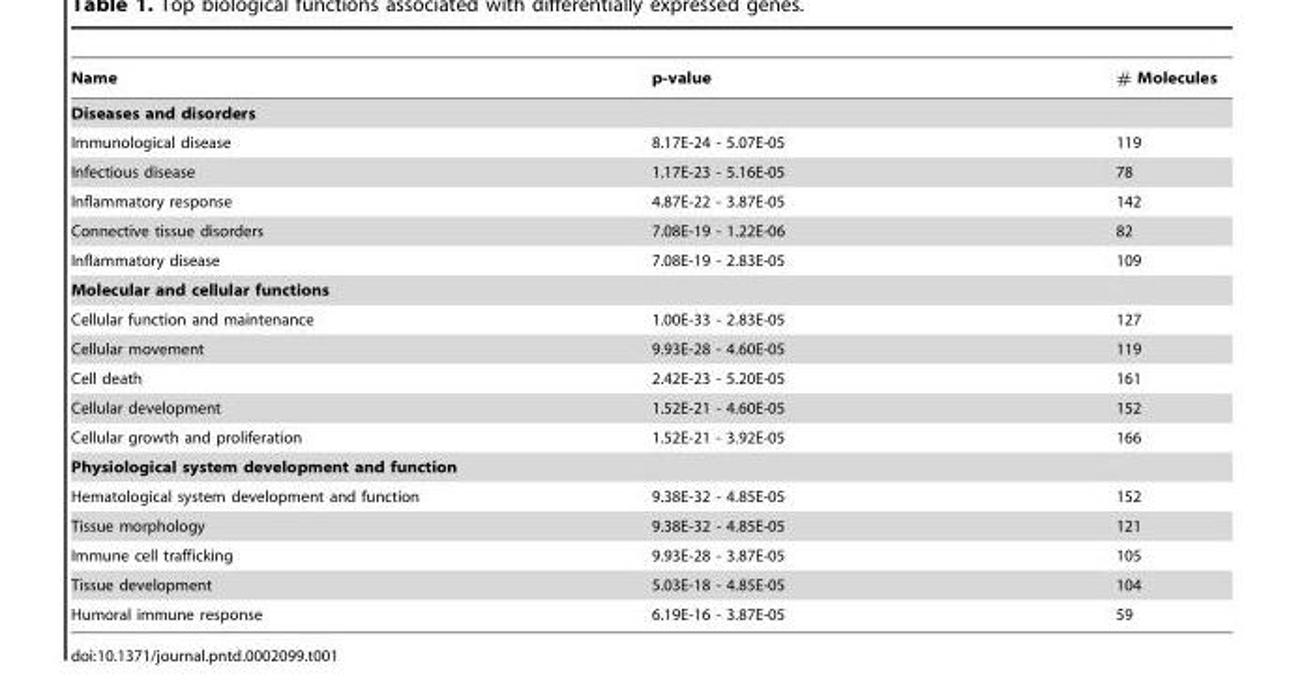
<table><thead><tr><td>Name</td><td>p-value</td><td># Molecules</td></tr></thead><tbody><tr><td colspan="3">Diseases and disorders</td></tr><tr><td>Immunological disease</td><td>8.17E-24 - 5.07E-05</td><td>119</td></tr><tr><td>Infectious disease</td><td>1.17E-23 - 5.16E-05</td><td>78</td></tr><tr><td>Inflammatory response</td><td>4.87E-22 - 3.87E-05</td><td>142</td></tr><tr><td>Connective tissue disorders</td><td>7.08E-19 - 1.22E-06</td><td>82</td></tr><tr><td>Inflammatory disease</td><td>7.08E-19 - 2.83E-05</td><td>109</td></tr><tr><td colspan="3">Molecular and cellular functions</td></tr><tr><td>Cellular function and maintenance</td><td>1.00E-33 - 2.83E-05</td><td>127</td></tr><tr><td>Cellular movement</td><td>9.93E-28 - 4.60E-05</td><td>119</td></tr><tr><td>Cell death</td><td>2.42E-23 - 5.20E-05</td><td>161</td></tr><tr><td>Cellular development</td><td>1.52E-21 - 4.60E-05</td><td>152</td></tr><tr><td>Cellular growth and proliferation</td><td>1.52E-21 - 3.92E-05</td><td>166</td></tr><tr><td colspan="3">Physiological system development and function</td></tr><tr><td>Hematological system development and function</td><td>9.38E-32 - 4.85E-05</td><td>152</td></tr><tr><td>Tissue morphology</td><td>9.38E-32 - 4.85E-05</td><td>121</td></tr><tr><td>Immune cell trafficking</td><td>9.93E-28 - 3.87E-05</td><td>105</td></tr><tr><td>Tissue development</td><td>5.03E-18 - 4.85E-05</td><td>104</td></tr><tr><td>Humoral immune response</td><td>6.19E-16 - 3.87E-05</td><td>59</td></tr></tbody></table>